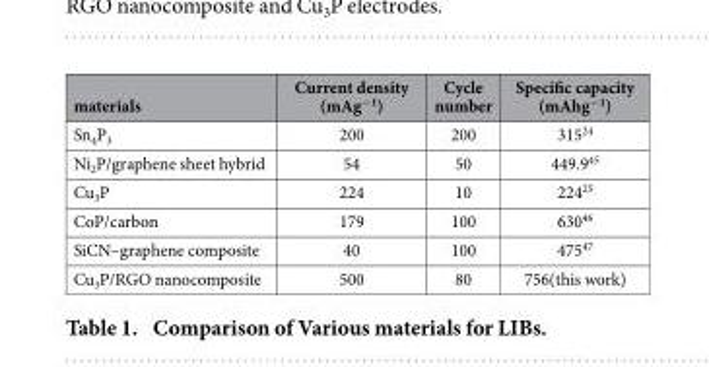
<table><thead><tr><td>materials</td><td>Current density (mAg<sup>−1</sup>)</td><td>Cycle number</td><td>Specific capacity (mAhg<sup>−1</sup>)</td></tr></thead><tbody><tr><td>Sn<sub>4</sub>P<sub>3</sub></td><td>200</td><td>200</td><td>315<sup>24</sup></td></tr><tr><td>Ni<sub>2</sub>P/graphene sheet hybrid</td><td>54</td><td>50</td><td>449.9<sup>45</sup></td></tr><tr><td>Cu<sub>3</sub>P</td><td>224</td><td>10</td><td>224<sup>25</sup></td></tr><tr><td>CoP/carbon</td><td>179</td><td>100</td><td>630<sup>46</sup></td></tr><tr><td>SiCN–graphene composite</td><td>40</td><td>100</td><td>475<sup>47</sup></td></tr><tr><td>Cu<sub>3</sub>P/RGO nanocomposite</td><td>500</td><td>80</td><td>756(this work)</td></tr></tbody></table>